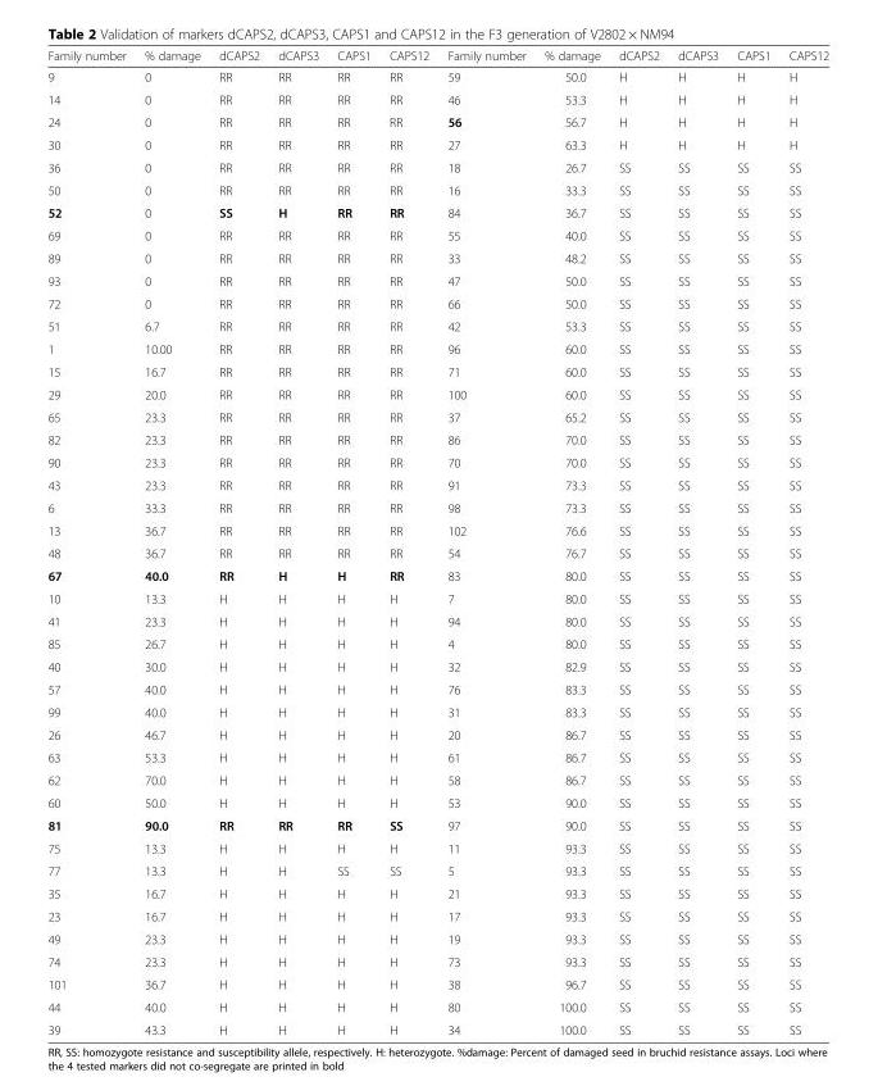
<table><thead><tr><td>Family number</td><td>% damage</td><td>dCAPS2</td><td>dCAPS3</td><td>CAPS1</td><td>CAPS12</td><td>Family number</td><td>% damage</td><td>dCAPS2</td><td>dCAPS3</td><td>CAPS1</td><td>CAPS12</td></tr></thead><tbody><tr><td>9</td><td>0</td><td>RR</td><td>RR</td><td>RR</td><td>RR</td><td>59</td><td>50.0</td><td>H</td><td>H</td><td>H</td><td>H</td></tr><tr><td>14</td><td>0</td><td>RR</td><td>RR</td><td>RR</td><td>RR</td><td>46</td><td>53.3</td><td>H</td><td>H</td><td>H</td><td>H</td></tr><tr><td>24</td><td>0</td><td>RR</td><td>RR</td><td>RR</td><td>RR</td><td>56</td><td>56.7</td><td>H</td><td>H</td><td>H</td><td>H</td></tr><tr><td>30</td><td>0</td><td>RR</td><td>RR</td><td>RR</td><td>RR</td><td>27</td><td>63.3</td><td>H</td><td>H</td><td>H</td><td>H</td></tr><tr><td>36</td><td>0</td><td>RR</td><td>RR</td><td>RR</td><td>RR</td><td>18</td><td>26.7</td><td>SS</td><td>SS</td><td>SS</td><td>SS</td></tr><tr><td>50</td><td>0</td><td>RR</td><td>RR</td><td>RR</td><td>RR</td><td>16</td><td>33.3</td><td>SS</td><td>SS</td><td>SS</td><td>SS</td></tr><tr><td>52</td><td>0</td><td>SS</td><td>H</td><td>RR</td><td>RR</td><td>84</td><td>36.7</td><td>SS</td><td>SS</td><td>SS</td><td>SS</td></tr><tr><td>69</td><td>0</td><td>RR</td><td>RR</td><td>RR</td><td>RR</td><td>55</td><td>40.0</td><td>SS</td><td>SS</td><td>SS</td><td>SS</td></tr><tr><td>89</td><td>0</td><td>RR</td><td>RR</td><td>RR</td><td>RR</td><td>33</td><td>48.2</td><td>SS</td><td>SS</td><td>SS</td><td>SS</td></tr><tr><td>93</td><td>0</td><td>RR</td><td>RR</td><td>RR</td><td>RR</td><td>47</td><td>50.0</td><td>SS</td><td>SS</td><td>SS</td><td>SS</td></tr><tr><td>72</td><td>0</td><td>RR</td><td>RR</td><td>RR</td><td>RR</td><td>66</td><td>50.0</td><td>SS</td><td>SS</td><td>SS</td><td>SS</td></tr><tr><td>51</td><td>6.7</td><td>RR</td><td>RR</td><td>RR</td><td>RR</td><td>42</td><td>53.3</td><td>SS</td><td>SS</td><td>SS</td><td>SS</td></tr><tr><td>1</td><td>10.00</td><td>RR</td><td>RR</td><td>RR</td><td>RR</td><td>96</td><td>60.0</td><td>SS</td><td>SS</td><td>SS</td><td>SS</td></tr><tr><td>15</td><td>16.7</td><td>RR</td><td>RR</td><td>RR</td><td>RR</td><td>71</td><td>60.0</td><td>SS</td><td>SS</td><td>SS</td><td>SS</td></tr><tr><td>29</td><td>20.0</td><td>RR</td><td>RR</td><td>RR</td><td>RR</td><td>100</td><td>60.0</td><td>SS</td><td>SS</td><td>SS</td><td>SS</td></tr><tr><td>65</td><td>23.3</td><td>RR</td><td>RR</td><td>RR</td><td>RR</td><td>37</td><td>65.2</td><td>SS</td><td>SS</td><td>SS</td><td>SS</td></tr><tr><td>82</td><td>23.3</td><td>RR</td><td>RR</td><td>RR</td><td>RR</td><td>86</td><td>70.0</td><td>SS</td><td>SS</td><td>SS</td><td>SS</td></tr><tr><td>90</td><td>23.3</td><td>RR</td><td>RR</td><td>RR</td><td>RR</td><td>70</td><td>70.0</td><td>SS</td><td>SS</td><td>SS</td><td>SS</td></tr><tr><td>43</td><td>23.3</td><td>RR</td><td>RR</td><td>RR</td><td>RR</td><td>91</td><td>73.3</td><td>SS</td><td>SS</td><td>SS</td><td>SS</td></tr><tr><td>6</td><td>33.3</td><td>RR</td><td>RR</td><td>RR</td><td>RR</td><td>98</td><td>73.3</td><td>SS</td><td>SS</td><td>SS</td><td>SS</td></tr><tr><td>13</td><td>36.7</td><td>RR</td><td>RR</td><td>RR</td><td>RR</td><td>102</td><td>76.6</td><td>SS</td><td>SS</td><td>SS</td><td>SS</td></tr><tr><td>48</td><td>36.7</td><td>RR</td><td>RR</td><td>RR</td><td>RR</td><td>54</td><td>76.7</td><td>SS</td><td>SS</td><td>SS</td><td>SS</td></tr><tr><td>67</td><td>40.0</td><td>RR</td><td>H</td><td>H</td><td>RR</td><td>83</td><td>80.0</td><td>SS</td><td>SS</td><td>SS</td><td>SS</td></tr><tr><td>10</td><td>13.3</td><td>H</td><td>H</td><td>H</td><td>H</td><td>7</td><td>80.0</td><td>SS</td><td>SS</td><td>SS</td><td>SS</td></tr><tr><td>41</td><td>23.3</td><td>H</td><td>H</td><td>H</td><td>H</td><td>94</td><td>80.0</td><td>SS</td><td>SS</td><td>SS</td><td>SS</td></tr><tr><td>85</td><td>26.7</td><td>H</td><td>H</td><td>H</td><td>H</td><td>4</td><td>80.0</td><td>SS</td><td>SS</td><td>SS</td><td>SS</td></tr><tr><td>40</td><td>30.0</td><td>H</td><td>H</td><td>H</td><td>H</td><td>32</td><td>82.9</td><td>SS</td><td>SS</td><td>SS</td><td>SS</td></tr><tr><td>57</td><td>40.0</td><td>H</td><td>H</td><td>H</td><td>H</td><td>76</td><td>83.3</td><td>SS</td><td>SS</td><td>SS</td><td>SS</td></tr><tr><td>99</td><td>40.0</td><td>H</td><td>H</td><td>H</td><td>H</td><td>31</td><td>83.3</td><td>SS</td><td>SS</td><td>SS</td><td>SS</td></tr><tr><td>26</td><td>46.7</td><td>H</td><td>H</td><td>H</td><td>H</td><td>20</td><td>86.7</td><td>SS</td><td>SS</td><td>SS</td><td>SS</td></tr><tr><td>63</td><td>53.3</td><td>H</td><td>H</td><td>H</td><td>H</td><td>61</td><td>86.7</td><td>SS</td><td>SS</td><td>SS</td><td>SS</td></tr><tr><td>62</td><td>70.0</td><td>H</td><td>H</td><td>H</td><td>H</td><td>58</td><td>86.7</td><td>SS</td><td>SS</td><td>SS</td><td>SS</td></tr><tr><td>60</td><td>50.0</td><td>H</td><td>H</td><td>H</td><td>H</td><td>53</td><td>90.0</td><td>SS</td><td>SS</td><td>SS</td><td>SS</td></tr><tr><td>81</td><td>90.0</td><td>RR</td><td>RR</td><td>RR</td><td>SS</td><td>97</td><td>90.0</td><td>SS</td><td>SS</td><td>SS</td><td>SS</td></tr><tr><td>75</td><td>13.3</td><td>H</td><td>H</td><td>H</td><td>H</td><td>11</td><td>93.3</td><td>SS</td><td>SS</td><td>SS</td><td>SS</td></tr><tr><td>77</td><td>13.3</td><td>H</td><td>H</td><td>SS</td><td>SS</td><td>5</td><td>93.3</td><td>SS</td><td>SS</td><td>SS</td><td>SS</td></tr><tr><td>35</td><td>16.7</td><td>H</td><td>H</td><td>H</td><td>H</td><td>21</td><td>93.3</td><td>SS</td><td>SS</td><td>SS</td><td>SS</td></tr><tr><td>23</td><td>16.7</td><td>H</td><td>H</td><td>H</td><td>H</td><td>17</td><td>93.3</td><td>SS</td><td>SS</td><td>SS</td><td>SS</td></tr><tr><td>49</td><td>23.3</td><td>H</td><td>H</td><td>H</td><td>H</td><td>19</td><td>93.3</td><td>SS</td><td>SS</td><td>SS</td><td>SS</td></tr><tr><td>74</td><td>23.3</td><td>H</td><td>H</td><td>H</td><td>H</td><td>73</td><td>93.3</td><td>SS</td><td>SS</td><td>SS</td><td>SS</td></tr><tr><td>101</td><td>36.7</td><td>H</td><td>H</td><td>H</td><td>H</td><td>38</td><td>96.7</td><td>SS</td><td>SS</td><td>SS</td><td>SS</td></tr><tr><td>44</td><td>40.0</td><td>H</td><td>H</td><td>H</td><td>H</td><td>80</td><td>100.0</td><td>SS</td><td>SS</td><td>SS</td><td>SS</td></tr><tr><td>39</td><td>43.3</td><td>H</td><td>H</td><td>H</td><td>H</td><td>34</td><td>100.0</td><td>SS</td><td>SS</td><td>SS</td><td>SS</td></tr></tbody></table>